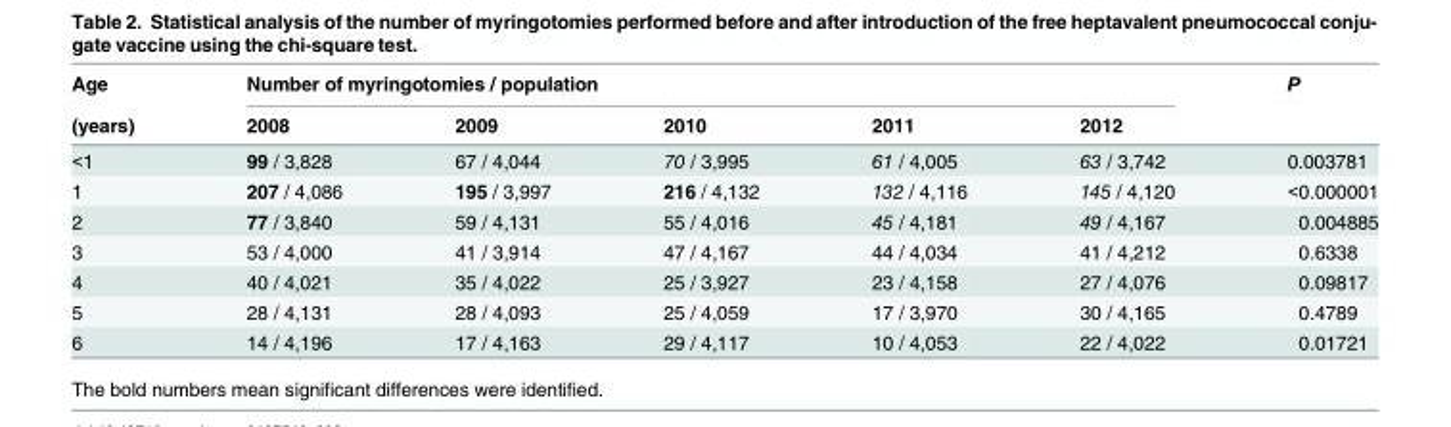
<table><thead><tr><td rowspan="2">Age (years)</td><td colspan="5">Number of myringotomies / population</td><td rowspan="2">P</td></tr><tr><td>2008</td><td>2009</td><td>2010</td><td>2011</td><td>2012</td></tr></thead><tbody><tr><td>&lt;1</td><td>99 / 3,828</td><td>67 / 4,044</td><td>70 / 3,995</td><td>61 / 4,005</td><td>63 / 3,742</td><td>0.003781</td></tr><tr><td>1</td><td>207 / 4,086</td><td>195 / 3,997</td><td>216 / 4,132</td><td>132 / 4,116</td><td>145 / 4,120</td><td>&lt;0.000001</td></tr><tr><td>2</td><td>77 / 3,840</td><td>59 / 4,131</td><td>55 / 4,016</td><td>45 / 4,181</td><td>49 / 4,167</td><td>0.004885</td></tr><tr><td>3</td><td>53 / 4,000</td><td>41 / 3,914</td><td>47 / 4,167</td><td>44 / 4,034</td><td>41 / 4,212</td><td>0.6338</td></tr><tr><td>4</td><td>40 / 4,021</td><td>35 / 4,022</td><td>25 / 3,927</td><td>23 / 4,158</td><td>27 / 4,076</td><td>0.09817</td></tr><tr><td>5</td><td>28 / 4,131</td><td>28 / 4,093</td><td>25 / 4,059</td><td>17 / 3,970</td><td>30 / 4,165</td><td>0.4789</td></tr><tr><td>6</td><td>14 / 4,196</td><td>17 / 4,163</td><td>29 / 4,117</td><td>10 / 4,053</td><td>22 / 4,022</td><td>0.01721</td></tr></tbody></table>